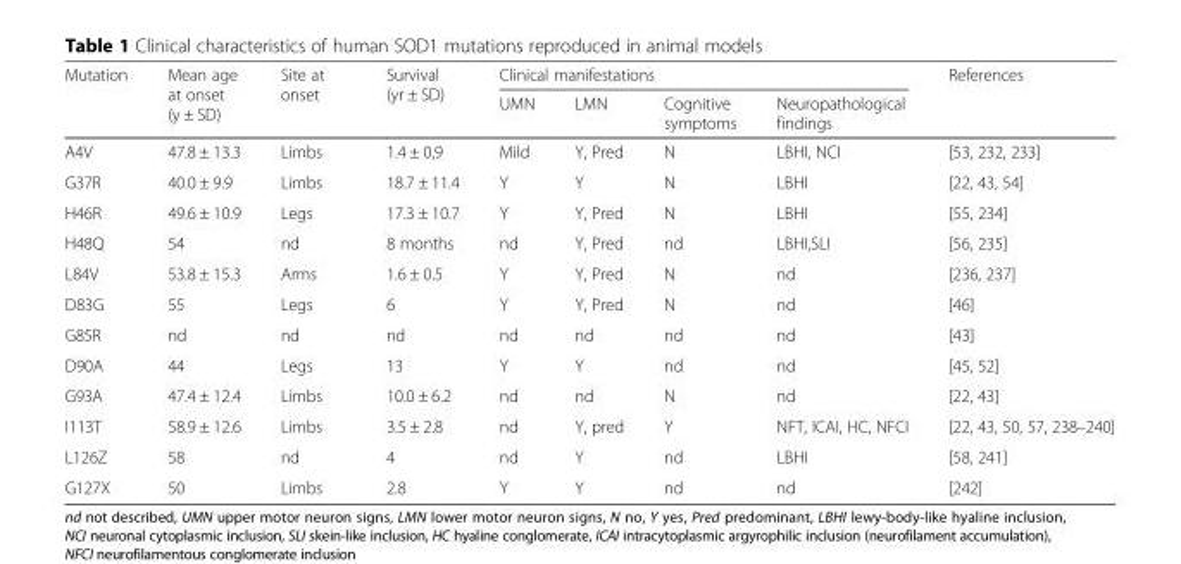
<table><thead><tr><td rowspan="2">Mutation</td><td rowspan="2">Mean age at onset (y ± SD)</td><td rowspan="2">Site at onset</td><td rowspan="2">Survival (yr ± SD)</td><td colspan="4">Clinical manifestations</td><td rowspan="2">References</td></tr><tr><td>UMN</td><td>LMN</td><td>Cognitive symptoms</td><td>Neuropathological findings</td></tr></thead><tbody><tr><td>A4V</td><td>47.8 ± 13.3</td><td>Limbs</td><td>1.4 ± 0,9</td><td>Mild</td><td>Y, Pred</td><td>N</td><td>LBHI, NCI</td><td>[53, 232, 233]</td></tr><tr><td>G37R</td><td>40.0 ± 9.9</td><td>Limbs</td><td>18.7 ± 11.4</td><td>Y</td><td>Y</td><td>N</td><td>LBHI</td><td>[22, 43, 54]</td></tr><tr><td>H46R</td><td>49.6 ± 10.9</td><td>Legs</td><td>17.3 ± 10.7</td><td>Y</td><td>Y, Pred</td><td>N</td><td>LBHI</td><td>[55, 234]</td></tr><tr><td>H48Q</td><td>54</td><td>nd</td><td>8 months</td><td>nd</td><td>Y, Pred</td><td>nd</td><td>LBHI,SLI</td><td>[56, 235]</td></tr><tr><td>L84V</td><td>53.8 ± 15.3</td><td>Arms</td><td>1.6 ± 0.5</td><td>Y</td><td>Y, Pred</td><td>N</td><td>nd</td><td>[236, 237]</td></tr><tr><td>D83G</td><td>55</td><td>Legs</td><td>6</td><td>Y</td><td>Y, Pred</td><td>N</td><td>nd</td><td>[46]</td></tr><tr><td>G85R</td><td>nd</td><td>nd</td><td>nd</td><td>nd</td><td>nd</td><td>nd</td><td>nd</td><td>[43]</td></tr><tr><td>D90A</td><td>44</td><td>Legs</td><td>13</td><td>Y</td><td>Y</td><td>nd</td><td>nd</td><td>[45, 52]</td></tr><tr><td>G93A</td><td>47.4 ± 12.4</td><td>Limbs</td><td>10.0 ± 6.2</td><td>nd</td><td>nd</td><td>N</td><td>nd</td><td>[22, 43]</td></tr><tr><td>I113T</td><td>58.9 ± 12.6</td><td>Limbs</td><td>3.5 ± 2.8</td><td>nd</td><td>Y, pred</td><td>Y</td><td>NFT, ICAI, HC, NFCI</td><td>[22, 43, 50, 57, 238–240]</td></tr><tr><td>L126Z</td><td>58</td><td>nd</td><td>4</td><td>nd</td><td>Y</td><td>nd</td><td>LBHI</td><td>[58, 241]</td></tr><tr><td>G127X</td><td>50</td><td>Limbs</td><td>2.8</td><td>Y</td><td>Y</td><td>nd</td><td>nd</td><td>[242]</td></tr></tbody></table>